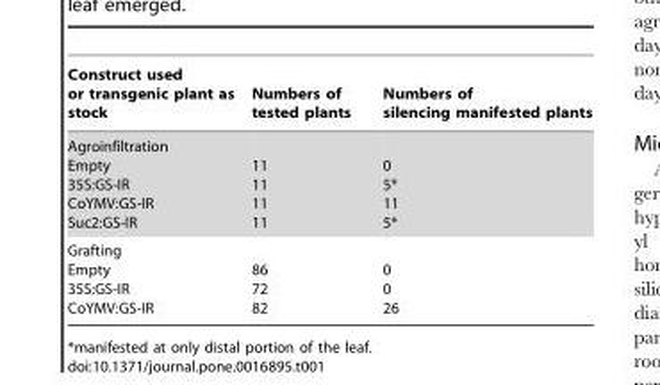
<table><thead><tr><td>Construct used or transgenic plant as stock</td><td>Numbers of tested plants</td><td>Numbers of silencing manifested plants</td></tr></thead><tbody><tr><td>Agroinfiltration Empty 35S:GS-IR CoYMV:GS-IR Suc2:GS-IR</td><td>11 11 11 11</td><td>0 5* 11 5*</td></tr><tr><td>Grafting Empty 35S:GS-IR CoYMV:GS-IR</td><td>86 72 82</td><td>0 0 26</td></tr></tbody></table>